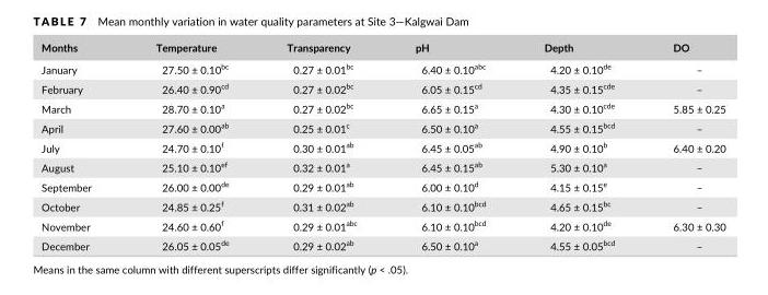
<table><thead><tr><td>Months</td><td>Temperature</td><td>Transparency</td><td>pH</td><td>Depth</td><td>DO</td></tr></thead><tbody><tr><td>January</td><td>27.50 ± 0.10<sup>bc</sup></td><td>0.27 ± 0.01<sup>bc</sup></td><td>6.40 ± 0.10<sup>abc</sup></td><td>4.20 ± 0.10<sup>de</sup></td><td>–</td></tr><tr><td>February</td><td>26.40 ± 0.90<sup>cd</sup></td><td>0.27 ± 0.02<sup>bc</sup></td><td>6.05 ± 0.15<sup>cd</sup></td><td>4.35 ± 0.15<sup>cde</sup></td><td>–</td></tr><tr><td>March</td><td>28.70 ± 0.10<sup>a</sup></td><td>0.27 ± 0.02<sup>bc</sup></td><td>6.65 ± 0.15<sup>a</sup></td><td>4.30 ± 0.10<sup>cde</sup></td><td>5.85 ± 0.25</td></tr><tr><td>April</td><td>27.60 ± 0.00<sup>ab</sup></td><td>0.25 ± 0.01<sup>c</sup></td><td>6.50 ± 0.10<sup>a</sup></td><td>4.55 ± 0.15<sup>bcd</sup></td><td>–</td></tr><tr><td>July</td><td>24.70 ± 0.10<sup>f</sup></td><td>0.30 ± 0.01<sup>ab</sup></td><td>6.45 ± 0.05<sup>ab</sup></td><td>4.90 ± 0.10<sup>b</sup></td><td>6.40 ± 0.20</td></tr><tr><td>August</td><td>25.10 ± 0.10<sup>ef</sup></td><td>0.32 ± 0.01<sup>a</sup></td><td>6.45 ± 0.15<sup>ab</sup></td><td>5.30 ± 0.10<sup>a</sup></td><td>–</td></tr><tr><td>September</td><td>26.00 ± 0.00<sup>de</sup></td><td>0.29 ± 0.01<sup>ab</sup></td><td>6.00 ± 0.10<sup>d</sup></td><td>4.15 ± 0.15<sup>e</sup></td><td>–</td></tr><tr><td>October</td><td>24.85 ± 0.25<sup>f</sup></td><td>0.31 ± 0.02<sup>ab</sup></td><td>6.10 ± 0.10<sup>bcd</sup></td><td>4.65 ± 0.15<sup>bc</sup></td><td>–</td></tr><tr><td>November</td><td>24.60 ± 0.60<sup>f</sup></td><td>0.29 ± 0.01<sup>abc</sup></td><td>6.10 ± 0.10<sup>bcd</sup></td><td>4.20 ± 0.10<sup>de</sup></td><td>6.30 ± 0.30</td></tr><tr><td>December</td><td>26.05 ± 0.05<sup>de</sup></td><td>0.29 ± 0.02<sup>ab</sup></td><td>6.50 ± 0.10<sup>a</sup></td><td>4.55 ± 0.05<sup>bcd</sup></td><td>–</td></tr></tbody></table>